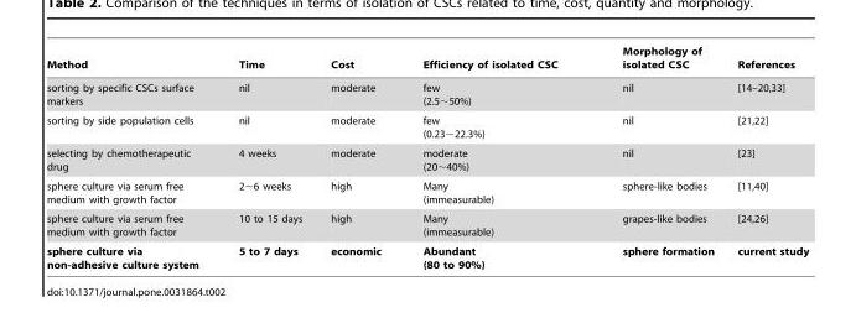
<table><thead><tr><td>Method</td><td>Time</td><td>Cost</td><td>Efficiency of isolated CSC</td><td>Morphology of isolated CSC</td><td>References</td></tr></thead><tbody><tr><td>sorting by specific CSCs surface markers</td><td>nil</td><td>moderate</td><td>few (2.5∼50%)</td><td>nil</td><td>[14–20,33]</td></tr><tr><td>sorting by side population cells</td><td>nil</td><td>moderate</td><td>few (0.23∼22.3%)</td><td>nil</td><td>[21,22]</td></tr><tr><td>selecting by chemotherapeutic drug</td><td>4 weeks</td><td>moderate</td><td>moderate (20∼40%)</td><td>nil</td><td>[23]</td></tr><tr><td>sphere culture via serum free medium with growth factor</td><td>2∼6 weeks</td><td>high</td><td>Many (immeasurable)</td><td>sphere-like bodies</td><td>[11,40]</td></tr><tr><td>sphere culture via serum free medium with growth factor</td><td>10 to 15 days</td><td>high</td><td>Many (immeasurable)</td><td>grapes-like bodies</td><td>[24,26]</td></tr><tr><td>sphere culture via non-adhesive culture system</td><td>5 to 7 days</td><td>economic</td><td>Abundant (80 to 90%)</td><td>sphere formation</td><td>current study</td></tr></tbody></table>